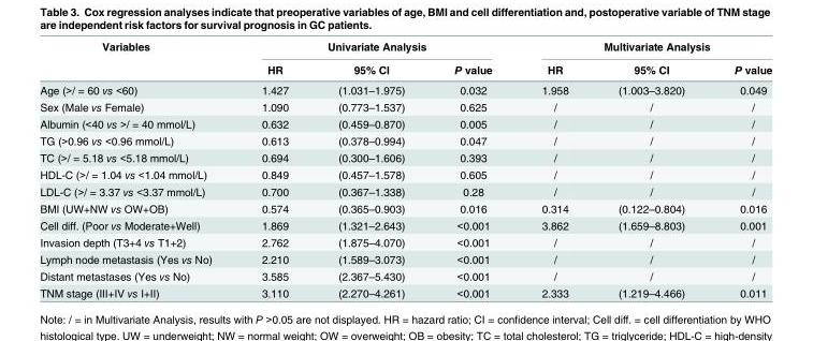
<table><thead><tr><td rowspan="2">Variables</td><td colspan="3">Univariate Analysis</td><td colspan="3">Multivariate Analysis</td></tr><tr><td>HR</td><td>95% CI</td><td>P value</td><td>HR</td><td>95% CI</td><td>P value</td></tr></thead><tbody><tr><td>Age (&gt;/ = 60 vs &lt;60)</td><td>1.427</td><td>(1.031–1.975)</td><td>0.032</td><td>1.958</td><td>(1.003–3.820)</td><td>0.049</td></tr><tr><td>Sex (Male vs Female)</td><td>1.090</td><td>(0.773–1.537)</td><td>0.625</td><td>/</td><td>/</td><td>/</td></tr><tr><td>Albumin (&lt;40 vs &gt;/ = 40 mmol/L)</td><td>0.632</td><td>(0.459–0.870)</td><td>0.005</td><td>/</td><td>/</td><td>/</td></tr><tr><td>TG (&gt;0.96 vs &lt;0.96 mmol/L)</td><td>0.613</td><td>(0.378–0.994)</td><td>0.047</td><td>/</td><td>/</td><td>/</td></tr><tr><td>TC (&gt;/ = 5.18 vs &lt;5.18 mmol/L)</td><td>0.694</td><td>(0.300–1.606)</td><td>0.393</td><td>/</td><td>/</td><td>/</td></tr><tr><td>HDL-C (&gt;/ = 1.04 vs &lt;1.04 mmol/L)</td><td>0.849</td><td>(0.457–1.578)</td><td>0.605</td><td>/</td><td>/</td><td>/</td></tr><tr><td>LDL-C (&gt;/ = 3.37 vs &lt;3.37 mmol/L)</td><td>0.700</td><td>(0.367–1.338)</td><td>0.28</td><td>/</td><td>/</td><td>/</td></tr><tr><td>BMI (UW+NW vs OW+OB)</td><td>0.574</td><td>(0.365–0.903)</td><td>0.016</td><td>0.314</td><td>(0.122–0.804)</td><td>0.016</td></tr><tr><td>Cell diff. (Poor vs Moderate+Well)</td><td>1.869</td><td>(1.321–2.643)</td><td>&lt;0.001</td><td>3.862</td><td>(1.659–8.803)</td><td>0.001</td></tr><tr><td>Invasion depth (T3+4 vs T1+2)</td><td>2.762</td><td>(1.875–4.070)</td><td>&lt;0.001</td><td>/</td><td>/</td><td>/</td></tr><tr><td>Lymph node metastasis (Yes vs No)</td><td>2.210</td><td>(1.589–3.073)</td><td>&lt;0.001</td><td>/</td><td>/</td><td>/</td></tr><tr><td>Distant metastases (Yes vs No)</td><td>3.585</td><td>(2.367–5.430)</td><td>&lt;0.001</td><td>/</td><td>/</td><td>/</td></tr><tr><td>TNM stage (III+IV vs I+II)</td><td>3.110</td><td>(2.270–4.261)</td><td>&lt;0.001</td><td>2.333</td><td>(1.219–4.466)</td><td>0.011</td></tr></tbody></table>